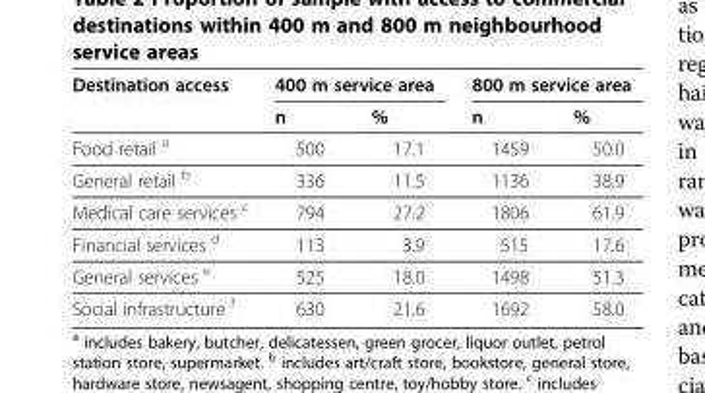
<table><thead><tr><td rowspan="2">Destination access</td><td colspan="2">400 m service area</td><td colspan="2">800 m service area</td></tr><tr><td>n</td><td>%</td><td>n</td><td>%</td></tr></thead><tbody><tr><td>Food retail <sup>a</sup></td><td>500</td><td>17.1</td><td>1459</td><td>50.0</td></tr><tr><td>General retail <sup>b</sup></td><td>336</td><td>11.5</td><td>1136</td><td>38.9</td></tr><tr><td>Medical care services <sup>c</sup></td><td>794</td><td>27.2</td><td>1806</td><td>61.9</td></tr><tr><td>Financial services <sup>d</sup></td><td>113</td><td>3.9</td><td>515</td><td>17.6</td></tr><tr><td>General services <sup>e</sup></td><td>525</td><td>18.0</td><td>1498</td><td>51.3</td></tr><tr><td>Social infrastructure <sup>f</sup></td><td>630</td><td>21.6</td><td>1692</td><td>58.0</td></tr></tbody></table>